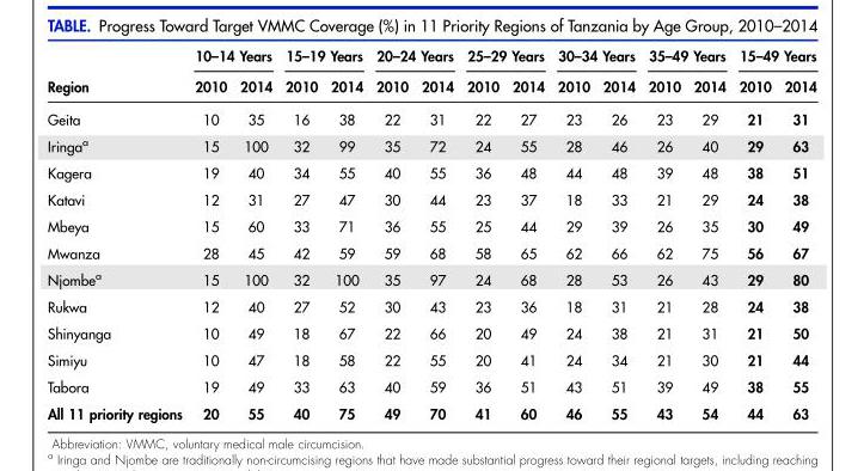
<table><thead><tr><td rowspan="2">Region</td><td colspan="2">10–14 Years</td><td colspan="2">15–19 Years</td><td colspan="2">20–24 Years</td><td colspan="2">25–29 Years</td><td colspan="2">30–34 Years</td><td colspan="2">35–49 Years</td><td colspan="2">15–49 Years</td></tr><tr><td>2010</td><td>2014</td><td>2010</td><td>2014</td><td>2010</td><td>2014</td><td>2010</td><td>2014</td><td>2010</td><td>2014</td><td>2010</td><td>2014</td><td>2010</td><td>2014</td></tr></thead><tbody><tr><td>Geita</td><td>10</td><td>35</td><td>16</td><td>38</td><td>22</td><td>31</td><td>22</td><td>27</td><td>23</td><td>26</td><td>23</td><td>29</td><td>21</td><td>31</td></tr><tr><td>Iringa<sup>a</sup></td><td>15</td><td>100</td><td>32</td><td>99</td><td>35</td><td>72</td><td>24</td><td>55</td><td>28</td><td>46</td><td>26</td><td>40</td><td>29</td><td>63</td></tr><tr><td>Kagera</td><td>19</td><td>40</td><td>34</td><td>55</td><td>40</td><td>55</td><td>36</td><td>48</td><td>44</td><td>48</td><td>39</td><td>48</td><td>38</td><td>51</td></tr><tr><td>Katavi</td><td>12</td><td>31</td><td>27</td><td>47</td><td>30</td><td>44</td><td>23</td><td>37</td><td>18</td><td>33</td><td>21</td><td>29</td><td>24</td><td>38</td></tr><tr><td>Mbeya</td><td>15</td><td>60</td><td>33</td><td>71</td><td>36</td><td>55</td><td>25</td><td>44</td><td>29</td><td>39</td><td>26</td><td>35</td><td>30</td><td>49</td></tr><tr><td>Mwanza</td><td>28</td><td>45</td><td>42</td><td>59</td><td>59</td><td>68</td><td>58</td><td>65</td><td>62</td><td>66</td><td>62</td><td>75</td><td>56</td><td>67</td></tr><tr><td>Njombe<sup>a</sup></td><td>15</td><td>100</td><td>32</td><td>100</td><td>35</td><td>97</td><td>24</td><td>68</td><td>28</td><td>53</td><td>26</td><td>43</td><td>29</td><td>80</td></tr><tr><td>Rukwa</td><td>12</td><td>40</td><td>27</td><td>52</td><td>30</td><td>43</td><td>23</td><td>36</td><td>18</td><td>31</td><td>21</td><td>28</td><td>24</td><td>38</td></tr><tr><td>Shinyanga</td><td>10</td><td>49</td><td>18</td><td>67</td><td>22</td><td>66</td><td>20</td><td>49</td><td>24</td><td>38</td><td>21</td><td>31</td><td>21</td><td>50</td></tr><tr><td>Simiyu</td><td>10</td><td>47</td><td>18</td><td>58</td><td>22</td><td>55</td><td>20</td><td>41</td><td>24</td><td>34</td><td>21</td><td>30</td><td>21</td><td>44</td></tr><tr><td>Tabora</td><td>19</td><td>49</td><td>33</td><td>63</td><td>40</td><td>59</td><td>36</td><td>51</td><td>43</td><td>51</td><td>39</td><td>49</td><td>38</td><td>55</td></tr><tr><td>All 11 priority regions</td><td>20</td><td>55</td><td>40</td><td>75</td><td>49</td><td>70</td><td>41</td><td>60</td><td>46</td><td>55</td><td>43</td><td>54</td><td>44</td><td>63</td></tr></tbody></table>